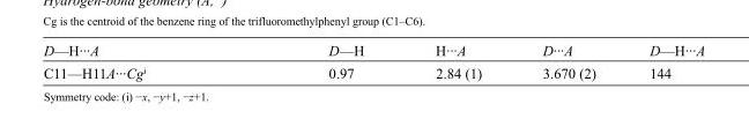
<table><tbody><tr><td>D—H···A</td><td>D—H</td><td>H···A</td><td>D···A</td><td>D—H···A</td></tr><tr><td>C11—H11A···Cg<sup>i</sup></td><td>0.97</td><td>2.84 (1)</td><td>3.670 (2)</td><td>144</td></tr></tbody></table>